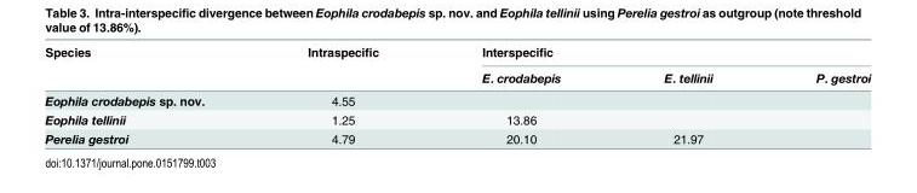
<table><thead><tr><td rowspan="2">Species</td><td rowspan="2">Intraspecific</td><td colspan="3">Interspecific</td></tr><tr><td>E. crodabepis</td><td>E. tellinii</td><td>P. gestroi</td></tr></thead><tbody><tr><td>Eophila crodabepis sp. nov.</td><td>4.55</td><td></td><td></td><td></td></tr><tr><td>Eophila tellinii</td><td>1.25</td><td>13.86</td><td></td><td></td></tr><tr><td>Perelia gestroi</td><td>4.79</td><td>20.10</td><td>21.97</td><td></td></tr></tbody></table>